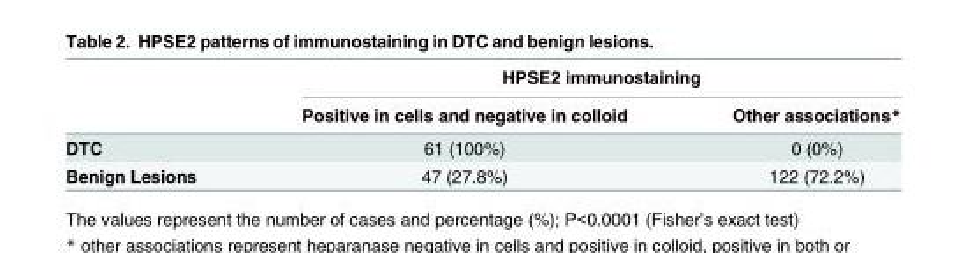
<table><thead><tr><td rowspan="2"></td><td colspan="2">HPSE2 immunostaining</td></tr><tr><td>Positive in cells and negative in colloid</td><td>Other associations*</td></tr></thead><tbody><tr><td>DTC</td><td>61 (100%)</td><td>0 (0%)</td></tr><tr><td>Benign Lesions</td><td>47 (27.8%)</td><td>122 (72.2%)</td></tr></tbody></table>